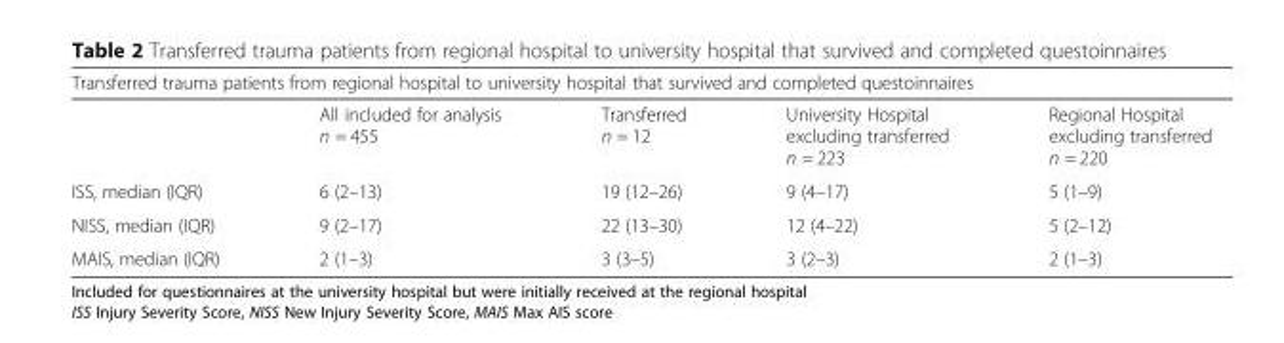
<table><thead><tr><td colspan="5">Transferred trauma patients from regional hospital to university hospital that survived and completed questoinnaires</td></tr><tr><td></td><td>All included for analysis n = 455</td><td>Transferred n = 12</td><td>University Hospital excluding transferred n = 223</td><td>Regional Hospital excluding transferred n = 220</td></tr></thead><tbody><tr><td>ISS, median (IQR)</td><td>6 (2–13)</td><td>19 (12–26)</td><td>9 (4–17)</td><td>5 (1–9)</td></tr><tr><td>NISS, median (IQR)</td><td>9 (2–17)</td><td>22 (13–30)</td><td>12 (4–22)</td><td>5 (2–12)</td></tr><tr><td>MAIS, median (IQR)</td><td>2 (1–3)</td><td>3 (3–5)</td><td>3 (2–3)</td><td>2 (1–3)</td></tr></tbody></table>